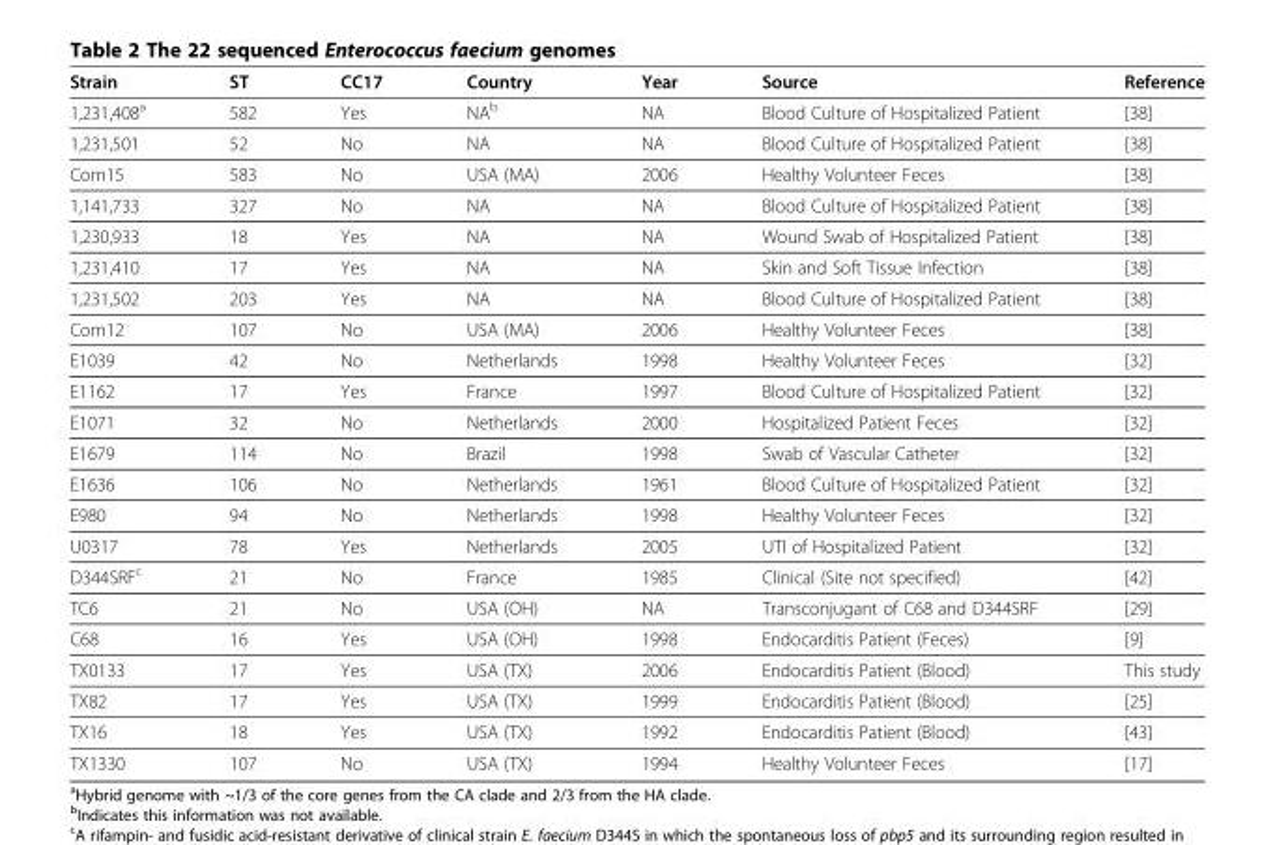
<table><thead><tr><td>Strain</td><td>ST</td><td>CC17</td><td>Country</td><td>Year</td><td>Source</td><td>Reference</td></tr></thead><tbody><tr><td>1,231,408<sup>a</sup></td><td>582</td><td>Yes</td><td>NA<sup>b</sup></td><td>NA</td><td>Blood Culture of Hospitalized Patient</td><td>[38]</td></tr><tr><td>1,231,501</td><td>52</td><td>No</td><td>NA</td><td>NA</td><td>Blood Culture of Hospitalized Patient</td><td>[38]</td></tr><tr><td>Com15</td><td>583</td><td>No</td><td>USA (MA)</td><td>2006</td><td>Healthy Volunteer Feces</td><td>[38]</td></tr><tr><td>1,141,733</td><td>327</td><td>No</td><td>NA</td><td>NA</td><td>Blood Culture of Hospitalized Patient</td><td>[38]</td></tr><tr><td>1,230,933</td><td>18</td><td>Yes</td><td>NA</td><td>NA</td><td>Wound Swab of Hospitalized Patient</td><td>[38]</td></tr><tr><td>1,231,410</td><td>17</td><td>Yes</td><td>NA</td><td>NA</td><td>Skin and Soft Tissue Infection</td><td>[38]</td></tr><tr><td>1,231,502</td><td>203</td><td>Yes</td><td>NA</td><td>NA</td><td>Blood Culture of Hospitalized Patient</td><td>[38]</td></tr><tr><td>Com12</td><td>107</td><td>No</td><td>USA (MA)</td><td>2006</td><td>Healthy Volunteer Feces</td><td>[38]</td></tr><tr><td>E1039</td><td>42</td><td>No</td><td>Netherlands</td><td>1998</td><td>Healthy Volunteer Feces</td><td>[32]</td></tr><tr><td>E1162</td><td>17</td><td>Yes</td><td>France</td><td>1997</td><td>Blood Culture of Hospitalized Patient</td><td>[32]</td></tr><tr><td>E1071</td><td>32</td><td>No</td><td>Netherlands</td><td>2000</td><td>Hospitalized Patient Feces</td><td>[32]</td></tr><tr><td>E1679</td><td>114</td><td>No</td><td>Brazil</td><td>1998</td><td>Swab of Vascular Catheter</td><td>[32]</td></tr><tr><td>E1636</td><td>106</td><td>No</td><td>Netherlands</td><td>1961</td><td>Blood Culture of Hospitalized Patient</td><td>[32]</td></tr><tr><td>E980</td><td>94</td><td>No</td><td>Netherlands</td><td>1998</td><td>Healthy Volunteer Feces</td><td>[32]</td></tr><tr><td>U0317</td><td>78</td><td>Yes</td><td>Netherlands</td><td>2005</td><td>UTI of Hospitalized Patient</td><td>[32]</td></tr><tr><td>D344SRF<sup>c</sup></td><td>21</td><td>No</td><td>France</td><td>1985</td><td>Clinical (Site not specified)</td><td>[42]</td></tr><tr><td>TC6</td><td>21</td><td>No</td><td>USA (OH)</td><td>NA</td><td>Transconjugant of C68 and D344SRF</td><td>[29]</td></tr><tr><td>C68</td><td>16</td><td>Yes</td><td>USA (OH)</td><td>1998</td><td>Endocarditis Patient (Feces)</td><td>[9]</td></tr><tr><td>TX0133</td><td>17</td><td>Yes</td><td>USA (TX)</td><td>2006</td><td>Endocarditis Patient (Blood)</td><td>This study</td></tr><tr><td>TX82</td><td>17</td><td>Yes</td><td>USA (TX)</td><td>1999</td><td>Endocarditis Patient (Blood)</td><td>[25]</td></tr><tr><td>TX16</td><td>18</td><td>Yes</td><td>USA (TX)</td><td>1992</td><td>Endocarditis Patient (Blood)</td><td>[43]</td></tr><tr><td>TX1330</td><td>107</td><td>No</td><td>USA (TX)</td><td>1994</td><td>Healthy Volunteer Feces</td><td>[17]</td></tr></tbody></table>